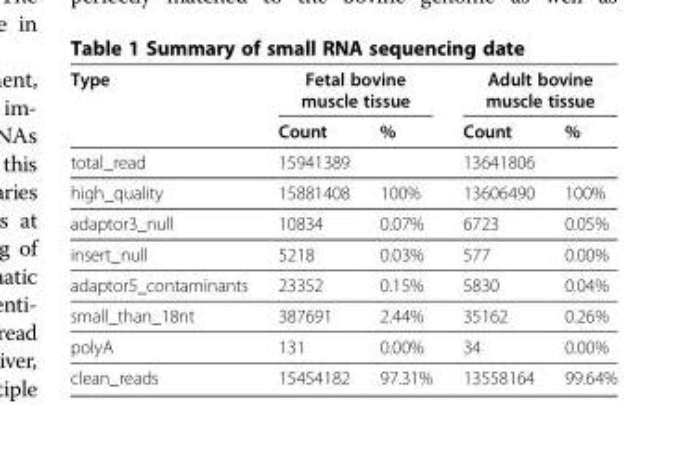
<table><thead><tr><td rowspan="2">Type</td><td colspan="2">Fetal bovine muscle tissue</td><td colspan="2">Adult bovine muscle tissue</td></tr><tr><td>Count</td><td>%</td><td>Count</td><td>%</td></tr></thead><tbody><tr><td>total_read</td><td>15941389</td><td></td><td>13641806</td><td></td></tr><tr><td>high_quality</td><td>15881408</td><td>100%</td><td>13606490</td><td>100%</td></tr><tr><td>adaptor3_null</td><td>10834</td><td>0.07%</td><td>6723</td><td>0.05%</td></tr><tr><td>insert_null</td><td>5218</td><td>0.03%</td><td>577</td><td>0.00%</td></tr><tr><td>adaptor5_contaminants</td><td>23352</td><td>0.15%</td><td>5830</td><td>0.04%</td></tr><tr><td>small_than_18nt</td><td>387691</td><td>2.44%</td><td>35162</td><td>0.26%</td></tr><tr><td>polyA</td><td>131</td><td>0.00%</td><td>34</td><td>0.00%</td></tr><tr><td>clean_reads</td><td>15454182</td><td>97.31%</td><td>13558164</td><td>99.64%</td></tr></tbody></table>